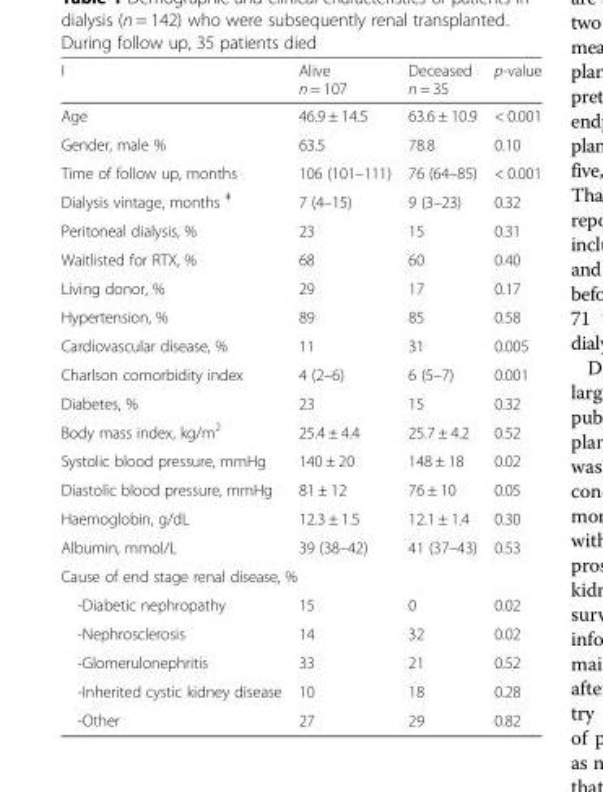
<table><thead><tr><td>I</td><td>Alive n = 107</td><td>Deceased n = 35</td><td>p-value</td></tr></thead><tbody><tr><td>Age</td><td>46.9 ± 14.5</td><td>63.6 ± 10.9</td><td>&lt; 0.001</td></tr><tr><td>Gender, male %</td><td>63.5</td><td>78.8</td><td>0.10</td></tr><tr><td>Time of follow up, months</td><td>106 (101–111)</td><td>76 (64–85)</td><td>&lt; 0.001</td></tr><tr><td>Dialysis vintage, months <sup>ǂ</sup></td><td>7 (4–15)</td><td>9 (3–23)</td><td>0.32</td></tr><tr><td>Peritoneal dialysis, %</td><td>23</td><td>15</td><td>0.31</td></tr><tr><td>Waitlisted for RTX, %</td><td>68</td><td>60</td><td>0.40</td></tr><tr><td>Living donor, %</td><td>29</td><td>17</td><td>0.17</td></tr><tr><td>Hypertension, %</td><td>89</td><td>85</td><td>0.58</td></tr><tr><td>Cardiovascular disease, %</td><td>11</td><td>31</td><td>0.005</td></tr><tr><td>Charlson comorbidity index</td><td>4 (2–6)</td><td>6 (5–7)</td><td>0.001</td></tr><tr><td>Diabetes, %</td><td>23</td><td>15</td><td>0.32</td></tr><tr><td>Body mass index, kg/m<sup>2</sup></td><td>25.4 ± 4.4</td><td>25.7 ± 4.2</td><td>0.52</td></tr><tr><td>Systolic blood pressure, mmHg</td><td>140 ± 20</td><td>148 ± 18</td><td>0.02</td></tr><tr><td>Diastolic blood pressure, mmHg</td><td>81 ± 12</td><td>76 ± 10</td><td>0.05</td></tr><tr><td>Haemoglobin, g/dL</td><td>12.3 ± 1.5</td><td>12.1 ± 1.4</td><td>0.30</td></tr><tr><td>Albumin, mmol/L</td><td>39 (38–42)</td><td>41 (37–43)</td><td>0.53</td></tr><tr><td colspan="4">Cause of end stage renal disease, %</td></tr><tr><td>-Diabetic nephropathy</td><td>15</td><td>0</td><td>0.02</td></tr><tr><td>-Nephrosclerosis</td><td>14</td><td>32</td><td>0.02</td></tr><tr><td>-Glomerulonephritis</td><td>33</td><td>21</td><td>0.52</td></tr><tr><td>-Inherited cystic kidney disease</td><td>10</td><td>18</td><td>0.28</td></tr><tr><td>-Other</td><td>27</td><td>29</td><td>0.82</td></tr></tbody></table>